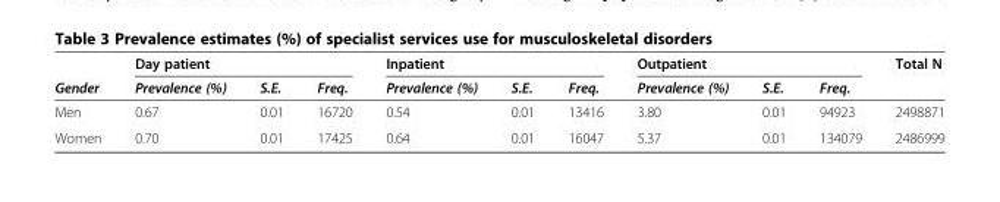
<table><thead><tr><td rowspan="2">Gender</td><td colspan="3">Day patient</td><td colspan="3">Inpatient</td><td colspan="3">Outpatient</td><td rowspan="2">Total N</td></tr><tr><td>Prevalence (%)</td><td>S.E.</td><td>Freq.</td><td>Prevalence (%)</td><td>S.E.</td><td>Freq.</td><td>Prevalence (%)</td><td>S.E.</td><td>Freq.</td></tr></thead><tbody><tr><td>Men</td><td>0.67</td><td>0.01</td><td>16720</td><td>0.54</td><td>0.01</td><td>13416</td><td>3.80</td><td>0.01</td><td>94923</td><td>2498871</td></tr><tr><td>Women</td><td>0.70</td><td>0.01</td><td>17425</td><td>0.64</td><td>0.01</td><td>16047</td><td>5.37</td><td>0.01</td><td>134079</td><td>2486999</td></tr></tbody></table>